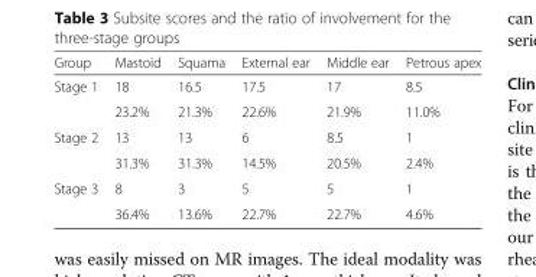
<table><thead><tr><td>Group</td><td>Mastoid</td><td>Squama</td><td>External ear</td><td>Middle ear</td><td>Petrous apex</td></tr></thead><tbody><tr><td rowspan="2">Stage 1</td><td>18</td><td>16.5</td><td>17.5</td><td>17</td><td>8.5</td></tr><tr><td>23.2%</td><td>21.3%</td><td>22.6%</td><td>21.9%</td><td>11.0%</td></tr><tr><td rowspan="2">Stage 2</td><td>13</td><td>13</td><td>6</td><td>8.5</td><td>1</td></tr><tr><td>31.3%</td><td>31.3%</td><td>14.5%</td><td>20.5%</td><td>2.4%</td></tr><tr><td rowspan="2">Stage 3</td><td>8</td><td>3</td><td>5</td><td>5</td><td>1</td></tr><tr><td>36.4%</td><td>13.6%</td><td>22.7%</td><td>22.7%</td><td>4.6%</td></tr></tbody></table>